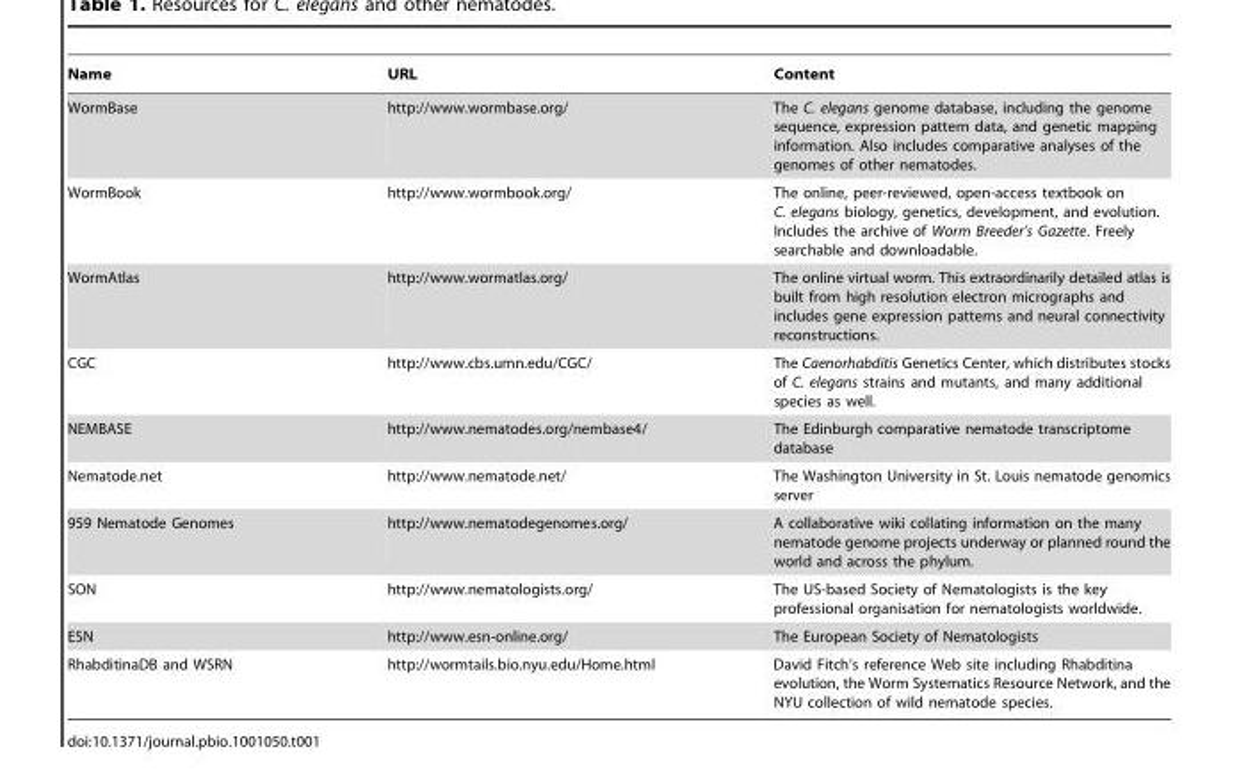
<table><thead><tr><td>Name</td><td>URL</td><td>Content</td></tr></thead><tbody><tr><td>WormBase</td><td>http://www.wormbase.org/</td><td>The C. elegans genome database, including the genome sequence, expression pattern data, and genetic mapping information. Also includes comparative analyses of the genomes of other nematodes.</td></tr><tr><td>WormBook</td><td>http://www.wormbook.org/</td><td>The online, peer-reviewed, open-access textbook on C. elegans biology, genetics, development, and evolution. Includes the archive of Worm Breeder’s Gazette. Freely searchable and downloadable.</td></tr><tr><td>WormAtlas</td><td>http://www.wormatlas.org/</td><td>The online virtual worm. This extraordinarily detailed atlas is built from high resolution electron micrographs and includes gene expression patterns and neural connectivity reconstructions.</td></tr><tr><td>CGC</td><td>http://www.cbs.umn.edu/CGC/</td><td>The Caenorhabditis Genetics Center, which distributes stocks of C. elegans strains and mutants, and many additional species as well.</td></tr><tr><td>NEMBASE</td><td>http://www.nematodes.org/nembase4/</td><td>The Edinburgh comparative nematode transcriptome database</td></tr><tr><td>Nematode.net</td><td>http://www.nematode.net/</td><td>The Washington University in St. Louis nematode genomics server</td></tr><tr><td>959 Nematode Genomes</td><td>http://www.nematodegenomes.org/</td><td>A collaborative wiki collating information on the many nematode genome projects underway or planned round the world and across the phylum.</td></tr><tr><td>SON</td><td>http://www.nematologists.org/</td><td>The US-based Society of Nematologists is the key professional organisation for nematologists worldwide.</td></tr><tr><td>ESN</td><td>http://www.esn-online.org/</td><td>The European Society of Nematologists</td></tr><tr><td>RhabditinaDB and WSRN</td><td>http://wormtails.bio.nyu.edu/Home.html</td><td>David Fitch’s reference Web site including Rhabditina evolution, the Worm Systematics Resource Network, and the NYU collection of wild nematode species.</td></tr></tbody></table>